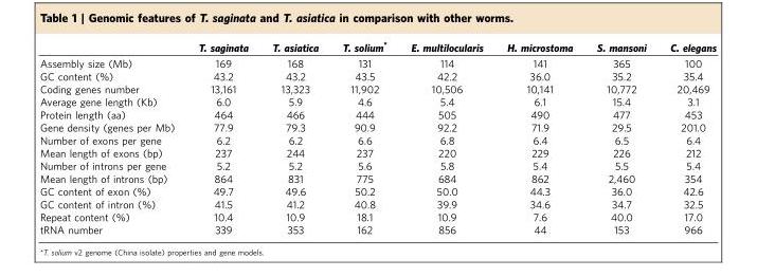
<table><thead><tr><td></td><td>T. saginata</td><td>T. asiatica</td><td>T. solium*</td><td>E. multilocularis</td><td>H. microstoma</td><td>S. mansoni</td><td>C. elegans</td></tr></thead><tbody><tr><td>Assembly size (Mb)</td><td>169</td><td>168</td><td>131</td><td>114</td><td>141</td><td>365</td><td>100</td></tr><tr><td>GC content (%)</td><td>43.2</td><td>43.2</td><td>43.5</td><td>42.2</td><td>36.0</td><td>35.2</td><td>35.4</td></tr><tr><td>Coding genes number</td><td>13,161</td><td>13,323</td><td>11,902</td><td>10,506</td><td>10,141</td><td>10,772</td><td>20,469</td></tr><tr><td>Average gene length (Kb)</td><td>6.0</td><td>5.9</td><td>4.6</td><td>5.4</td><td>6.1</td><td>15.4</td><td>3.1</td></tr><tr><td>Protein length (aa)</td><td>464</td><td>466</td><td>444</td><td>505</td><td>490</td><td>477</td><td>453</td></tr><tr><td>Gene density (genes per Mb)</td><td>77.9</td><td>79.3</td><td>90.9</td><td>92.2</td><td>71.9</td><td>29.5</td><td>201.0</td></tr><tr><td>Number of exons per gene</td><td>6.2</td><td>6.2</td><td>6.6</td><td>6.8</td><td>6.4</td><td>6.5</td><td>6.4</td></tr><tr><td>Mean length of exons (bp)</td><td>237</td><td>244</td><td>237</td><td>220</td><td>229</td><td>226</td><td>212</td></tr><tr><td>Number of introns per gene</td><td>5.2</td><td>5.2</td><td>5.6</td><td>5.8</td><td>5.4</td><td>5.5</td><td>5.4</td></tr><tr><td>Mean length of introns (bp)</td><td>864</td><td>831</td><td>775</td><td>684</td><td>862</td><td>2,460</td><td>354</td></tr><tr><td>GC content of exon (%)</td><td>49.7</td><td>49.6</td><td>50.2</td><td>50.0</td><td>44.3</td><td>36.0</td><td>42.6</td></tr><tr><td>GC content of intron (%)</td><td>41.5</td><td>41.2</td><td>40.8</td><td>39.9</td><td>34.6</td><td>34.7</td><td>32.5</td></tr><tr><td>Repeat content (%)</td><td>10.4</td><td>10.9</td><td>18.1</td><td>10.9</td><td>7.6</td><td>40.0</td><td>17.0</td></tr><tr><td>tRNA number</td><td>339</td><td>353</td><td>162</td><td>856</td><td>44</td><td>153</td><td>966</td></tr></tbody></table>